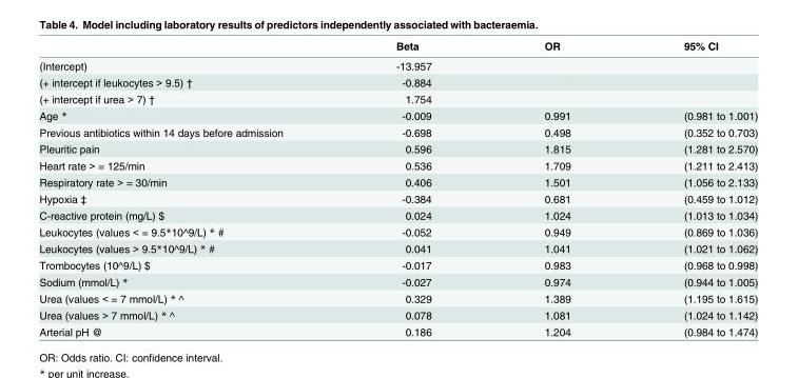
<table><thead><tr><td></td><td>Beta</td><td>OR</td><td>95% CI</td></tr></thead><tbody><tr><td>(Intercept)</td><td>-13.957</td><td></td><td></td></tr><tr><td>(+ intercept if leukocytes &gt; 9.5) †</td><td>-0.884</td><td></td><td></td></tr><tr><td>(+ intercept if urea &gt; 7) †</td><td>1.754</td><td></td><td></td></tr><tr><td>Age *</td><td>-0.009</td><td>0.991</td><td>(0.981 to 1.001)</td></tr><tr><td>Previous antibiotics within 14 days before admission</td><td>-0.698</td><td>0.498</td><td>(0.352 to 0.703)</td></tr><tr><td>Pleuritic pain</td><td>0.596</td><td>1.815</td><td>(1.281 to 2.570)</td></tr><tr><td>Heart rate &gt; = 125/min</td><td>0.536</td><td>1.709</td><td>(1.211 to 2.413)</td></tr><tr><td>Respiratory rate &gt; = 30/min</td><td>0.406</td><td>1.501</td><td>(1.056 to 2.133)</td></tr><tr><td>Hypoxia ‡</td><td>-0.384</td><td>0.681</td><td>(0.459 to 1.012)</td></tr><tr><td>C-reactive protein (mg/L) $</td><td>0.024</td><td>1.024</td><td>(1.013 to 1.034)</td></tr><tr><td>Leukocytes (values &lt; = 9.5*10^9/L) * #</td><td>-0.052</td><td>0.949</td><td>(0.869 to 1.036)</td></tr><tr><td>Leukocytes (values &gt; 9.5*10^9/L) * #</td><td>0.041</td><td>1.041</td><td>(1.021 to 1.062)</td></tr><tr><td>Trombocytes (10^9/L) $</td><td>-0.017</td><td>0.983</td><td>(0.968 to 0.998)</td></tr><tr><td>Sodium (mmol/L) *</td><td>-0.027</td><td>0.974</td><td>(0.944 to 1.005)</td></tr><tr><td>Urea (values &lt; = 7 mmol/L) * ^</td><td>0.329</td><td>1.389</td><td>(1.195 to 1.615)</td></tr><tr><td>Urea (values &gt; 7 mmol/L) * ^</td><td>0.078</td><td>1.081</td><td>(1.024 to 1.142)</td></tr><tr><td>Arterial pH @</td><td>0.186</td><td>1.204</td><td>(0.984 to 1.474)</td></tr></tbody></table>